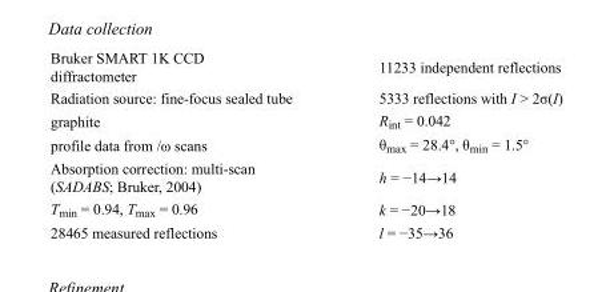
<table><tbody><tr><td>Bruker SMART 1K CCD diffractometer</td><td>11233 independent reflections</td></tr><tr><td>Radiation source: fine-focus sealed tube</td><td>5333 reflections with I &gt; 2σ(I)</td></tr><tr><td>graphite</td><td>R<sub>int</sub> = 0.042</td></tr><tr><td>profile data from /ω scans</td><td>θ<sub>max</sub> = 28.4°, θ<sub>min</sub> = 1.5°</td></tr><tr><td>Absorption correction: multi-scan (SADABS; Bruker, 2004)</td><td>h = −14→14</td></tr><tr><td>T<sub>min</sub> = 0.94, T<sub>max</sub> = 0.96</td><td>k = −20→18</td></tr><tr><td>28465 measured reflections</td><td>l = −35→36</td></tr></tbody></table>